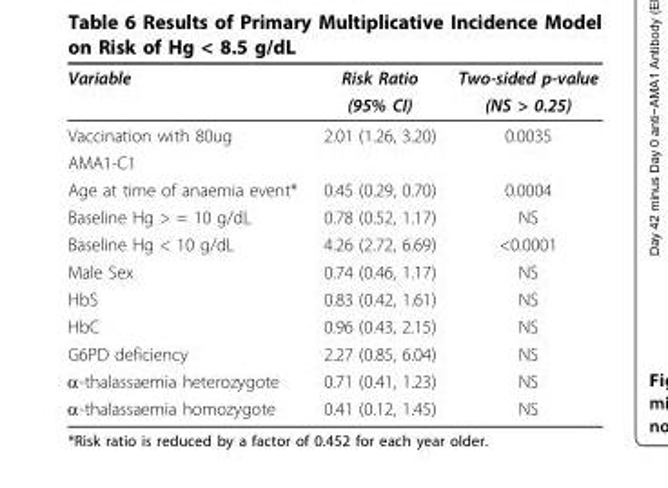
<table><thead><tr><td rowspan="2">Variable</td><td rowspan="2">Risk Ratio (95% CI)</td><td rowspan="2">Two-sided p-value (NS &gt; 0.25)</td></tr><tr></tr></thead><tbody><tr><td>Vaccination with 80ug</td><td>2.01 (1.26, 3.20)</td><td>0.0035</td></tr><tr><td colspan="3">AMA1-C1</td></tr><tr><td>Age at time of anaemia event*</td><td>0.45 (0.29, 0.70)</td><td>0.0004</td></tr><tr><td>Baseline Hg &gt; = 10 g/dL</td><td>0.78 (0.52, 1.17)</td><td>NS</td></tr><tr><td>Baseline Hg &lt; 10 g/dL</td><td>4.26 (2.72, 6.69)</td><td>&lt;0.0001</td></tr><tr><td>Male Sex</td><td>0.74 (0.46, 1.17)</td><td>NS</td></tr><tr><td>HbS</td><td>0.83 (0.42, 1.61)</td><td>NS</td></tr><tr><td>HbC</td><td>0.96 (0.43, 2.15)</td><td>NS</td></tr><tr><td>G6PD deficiency</td><td>2.27 (0.85, 6.04)</td><td>NS</td></tr><tr><td>α-thalassaemia heterozygote</td><td>0.71 (0.41, 1.23)</td><td>NS</td></tr><tr><td>α-thalassaemia homozygote</td><td>0.41 (0.12, 1.45)</td><td>NS</td></tr></tbody></table>